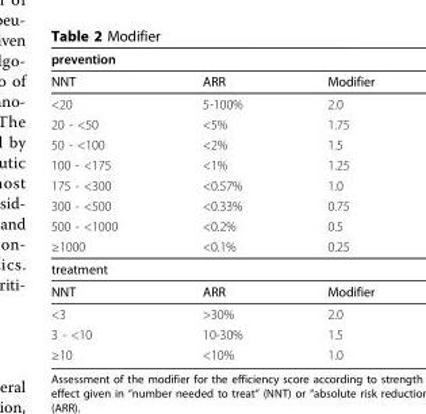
<table><thead><tr><td>prevention</td><td></td><td></td></tr></thead><tbody><tr><td>NNT</td><td>ARR</td><td>Modifier</td></tr><tr><td>&lt;20</td><td>5-100%</td><td>2.0</td></tr><tr><td>20 - &lt;50</td><td>&lt;5%</td><td>1.75</td></tr><tr><td>50 - &lt;100</td><td>&lt;2%</td><td>1.5</td></tr><tr><td>100 - &lt;175</td><td>&lt;1%</td><td>1.25</td></tr><tr><td>175 - &lt;300</td><td>&lt;0.57%</td><td>1.0</td></tr><tr><td>300 - &lt;500</td><td>&lt;0.33%</td><td>0.75</td></tr><tr><td>500 - &lt;1000</td><td>&lt;0.2%</td><td>0.5</td></tr><tr><td>≥1000</td><td>&lt;0.1%</td><td>0.25</td></tr><tr><td colspan="3">treatment</td></tr><tr><td>NNT</td><td>ARR</td><td>Modifier</td></tr><tr><td>&lt;3</td><td>&gt;30%</td><td>2.0</td></tr><tr><td>3 - &lt;10</td><td>10-30%</td><td>1.5</td></tr><tr><td>≥10</td><td>&lt;10%</td><td>1.0</td></tr></tbody></table>